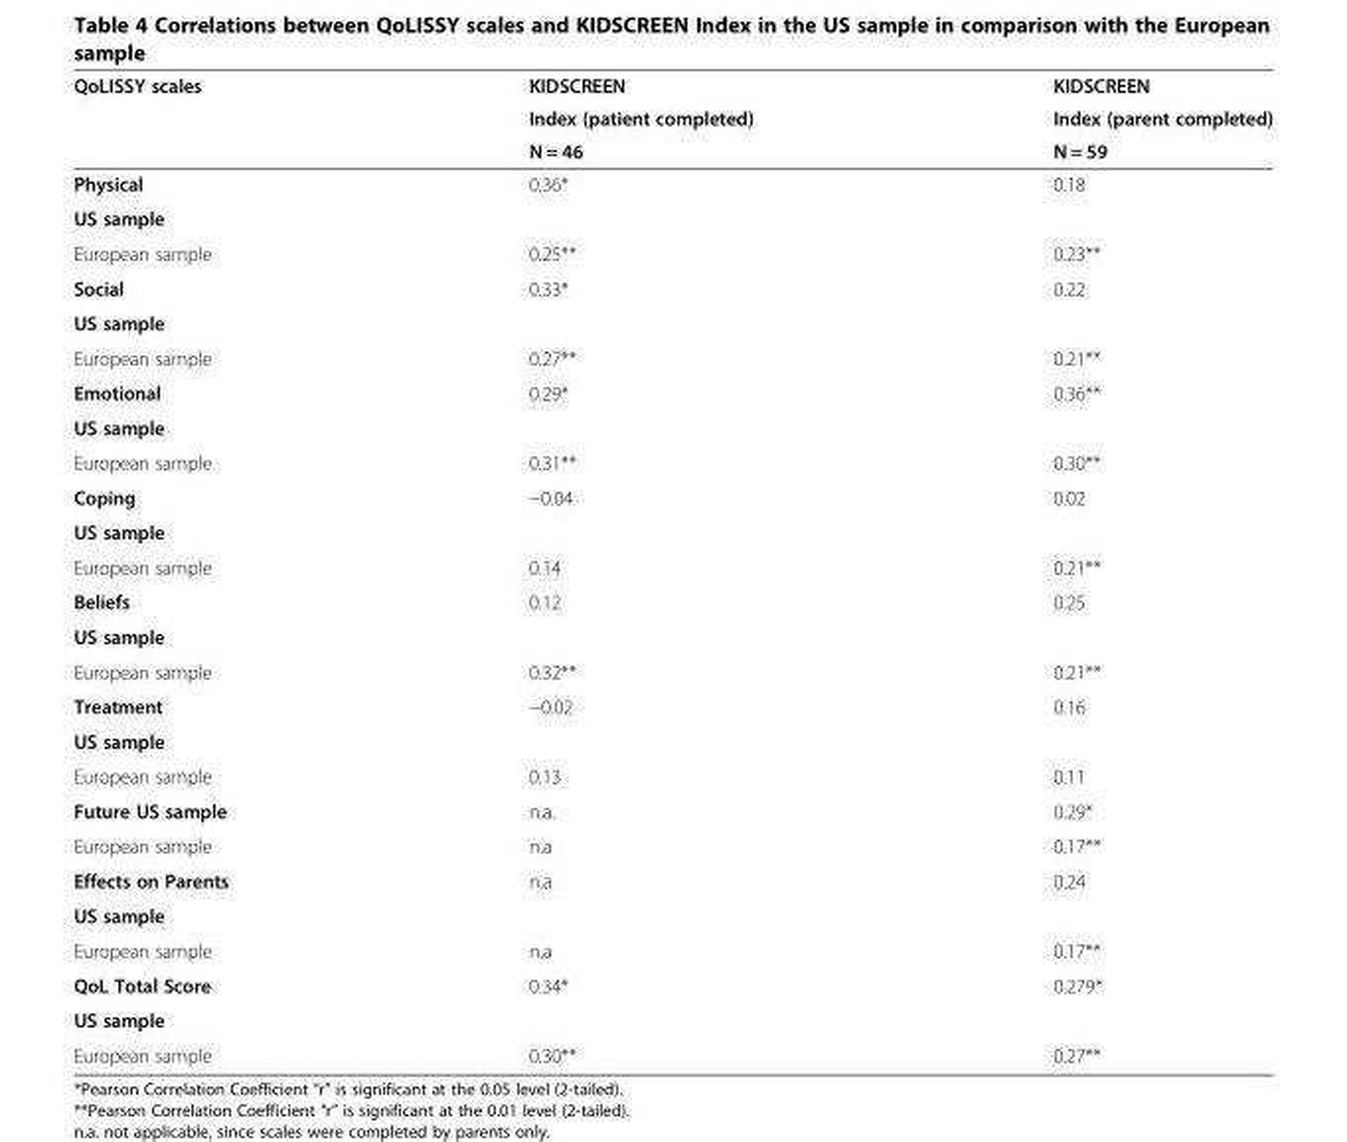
<table><thead><tr><td rowspan="3">QoLISSY scales</td><td rowspan="3">KIDSCREEN Index (patient completed) N = 46</td><td rowspan="3">KIDSCREEN Index (parent completed) N = 59</td></tr><tr></tr><tr></tr></thead><tbody><tr><td>Physical</td><td rowspan="2">0.36*</td><td rowspan="2">0.18</td></tr><tr><td>US sample</td></tr><tr><td>European sample</td><td>0.25**</td><td>0.23**</td></tr><tr><td>Social</td><td rowspan="2">0.33*</td><td rowspan="2">0.22</td></tr><tr><td>US sample</td></tr><tr><td>European sample</td><td>0.27**</td><td>0.21**</td></tr><tr><td>Emotional</td><td rowspan="2">0.29*</td><td rowspan="2">0.36**</td></tr><tr><td>US sample</td></tr><tr><td>European sample</td><td>0.31**</td><td>0.30**</td></tr><tr><td>Coping</td><td rowspan="2">−0.04</td><td rowspan="2">0.02</td></tr><tr><td>US sample</td></tr><tr><td>European sample</td><td>0.14</td><td>0.21**</td></tr><tr><td>Beliefs</td><td rowspan="2">0.12</td><td rowspan="2">0.25</td></tr><tr><td>US sample</td></tr><tr><td>European sample</td><td>0.32**</td><td>0.21**</td></tr><tr><td>Treatment</td><td rowspan="2">−0.02</td><td rowspan="2">0.16</td></tr><tr><td>US sample</td></tr><tr><td>European sample</td><td>0.13</td><td>0.11</td></tr><tr><td>Future US sample</td><td>n.a.</td><td>0.29*</td></tr><tr><td>European sample</td><td>n.a</td><td>0.17**</td></tr><tr><td>Effects on Parents</td><td rowspan="2">n.a</td><td rowspan="2">0.24</td></tr><tr><td>US sample</td></tr><tr><td>European sample</td><td>n.a</td><td>0.17**</td></tr><tr><td>QoL Total Score</td><td rowspan="2">0.34*</td><td rowspan="2">0.279*</td></tr><tr><td>US sample</td></tr><tr><td>European sample</td><td>0.30**</td><td>0.27**</td></tr></tbody></table>